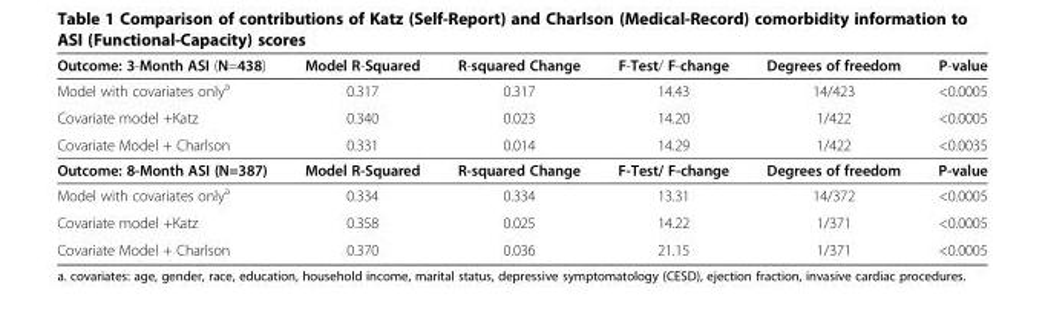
<table><thead><tr><td>Outcome: 3-Month ASI (N=438)</td><td>Model R-Squared</td><td>R-squared Change</td><td>F-Test/ F-change</td><td>Degrees of freedom</td><td>P-value</td></tr></thead><tbody><tr><td>Model with covariates only<sup>a</sup></td><td>0.317</td><td>0.317</td><td>14.43</td><td>14/423</td><td>&lt;0.0005</td></tr><tr><td>Covariate model +Katz</td><td>0.340</td><td>0.023</td><td>14.20</td><td>1/422</td><td>&lt;0.0005</td></tr><tr><td>Covariate Model + Charlson</td><td>0.331</td><td>0.014</td><td>14.29</td><td>1/422</td><td>&lt;0.0035</td></tr><tr><td>Outcome: 8-Month ASI (N=387)</td><td>Model R-Squared</td><td>R-squared Change</td><td>F-Test/ F-change</td><td>Degrees of freedom</td><td>P-value</td></tr><tr><td>Model with covariates only<sup>a</sup></td><td>0.334</td><td>0.334</td><td>13.31</td><td>14/372</td><td>&lt;0.0005</td></tr><tr><td>Covariate model +Katz</td><td>0.358</td><td>0.025</td><td>14.22</td><td>1/371</td><td>&lt;0.0005</td></tr><tr><td>Covariate Model + Charlson</td><td>0.370</td><td>0.036</td><td>21.15</td><td>1/371</td><td>&lt;0.0005</td></tr></tbody></table>